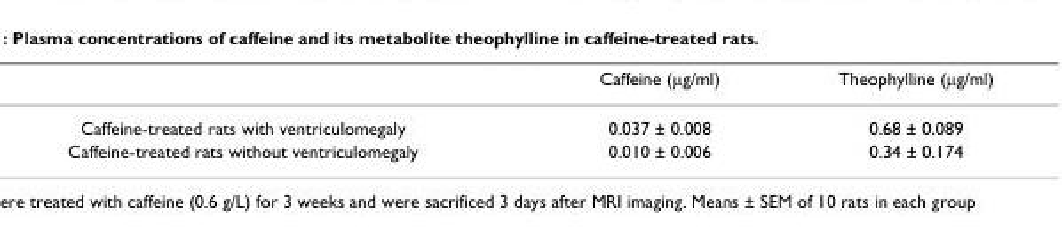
<table><thead><tr><td></td><td>Caffeine (μg/ml)</td><td>Theophylline (μg/ml)</td></tr></thead><tbody><tr><td>Caffeine-treated rats with ventriculomegaly</td><td>0.037 ± 0.008</td><td>0.68 ± 0.089</td></tr><tr><td>Caffeine-treated rats without ventriculomegaly</td><td>0.010 ± 0.006</td><td>0.34 ± 0.174</td></tr></tbody></table>